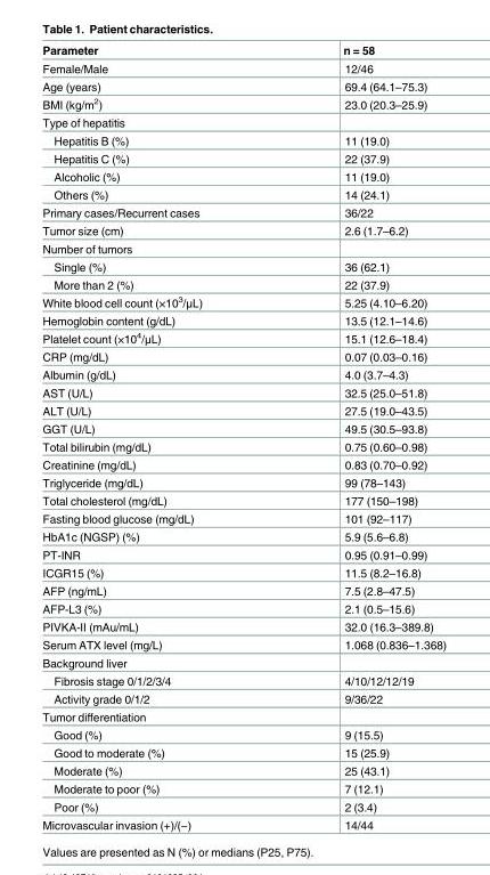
<table><thead><tr><td>Parameter</td><td>n = 58</td></tr></thead><tbody><tr><td>Female/Male</td><td>12/46</td></tr><tr><td>Age (years)</td><td>69.4 (64.1–75.3)</td></tr><tr><td>BMI (kg/m<sup>2</sup>)</td><td>23.0 (20.3–25.9)</td></tr><tr><td colspan="2">Type of hepatitis</td></tr><tr><td>Hepatitis B (%)</td><td>11 (19.0)</td></tr><tr><td>Hepatitis C (%)</td><td>22 (37.9)</td></tr><tr><td>Alcoholic (%)</td><td>11 (19.0)</td></tr><tr><td>Others (%)</td><td>14 (24.1)</td></tr><tr><td>Primary cases/Recurrent cases</td><td>36/22</td></tr><tr><td>Tumor size (cm)</td><td>2.6 (1.7–6.2)</td></tr><tr><td colspan="2">Number of tumors</td></tr><tr><td>Single (%)</td><td>36 (62.1)</td></tr><tr><td>More than 2 (%)</td><td>22 (37.9)</td></tr><tr><td>White blood cell count (×10<sup>3</sup>/μL)</td><td>5.25 (4.10–6.20)</td></tr><tr><td>Hemoglobin content (g/dL)</td><td>13.5 (12.1–14.6)</td></tr><tr><td>Platelet count (×10<sup>4</sup>/μL)</td><td>15.1 (12.6–18.4)</td></tr><tr><td>CRP (mg/dL)</td><td>0.07 (0.03–0.16)</td></tr><tr><td>Albumin (g/dL)</td><td>4.0 (3.7–4.3)</td></tr><tr><td>AST (U/L)</td><td>32.5 (25.0–51.8)</td></tr><tr><td>ALT (U/L)</td><td>27.5 (19.0–43.5)</td></tr><tr><td>GGT (U/L)</td><td>49.5 (30.5–93.8)</td></tr><tr><td>Total bilirubin (mg/dL)</td><td>0.75 (0.60–0.98)</td></tr><tr><td>Creatinine (mg/dL)</td><td>0.83 (0.70–0.92)</td></tr><tr><td>Triglyceride (mg/dL)</td><td>99 (78–143)</td></tr><tr><td>Total cholesterol (mg/dL)</td><td>177 (150–198)</td></tr><tr><td>Fasting blood glucose (mg/dL)</td><td>101 (92–117)</td></tr><tr><td>HbA1c (NGSP) (%)</td><td>5.9 (5.6–6.8)</td></tr><tr><td>PT-INR</td><td>0.95 (0.91–0.99)</td></tr><tr><td>ICGR15 (%)</td><td>11.5 (8.2–16.8)</td></tr><tr><td>AFP (ng/mL)</td><td>7.5 (2.8–47.5)</td></tr><tr><td>AFP-L3 (%)</td><td>2.1 (0.5–15.6)</td></tr><tr><td>PIVKA-II (mAu/mL)</td><td>32.0 (16.3–389.8)</td></tr><tr><td>Serum ATX level (mg/L)</td><td>1.068 (0.836–1.368)</td></tr><tr><td colspan="2">Background liver</td></tr><tr><td>Fibrosis stage 0/1/2/3/4</td><td>4/10/12/12/19</td></tr><tr><td>Activity grade 0/1/2</td><td>9/36/22</td></tr><tr><td colspan="2">Tumor differentiation</td></tr><tr><td>Good (%)</td><td>9 (15.5)</td></tr><tr><td>Good to moderate (%)</td><td>15 (25.9)</td></tr><tr><td>Moderate (%)</td><td>25 (43.1)</td></tr><tr><td>Moderate to poor (%)</td><td>7 (12.1)</td></tr><tr><td>Poor (%)</td><td>2 (3.4)</td></tr><tr><td>Microvascular invasion (+)/(−)</td><td>14/44</td></tr></tbody></table>